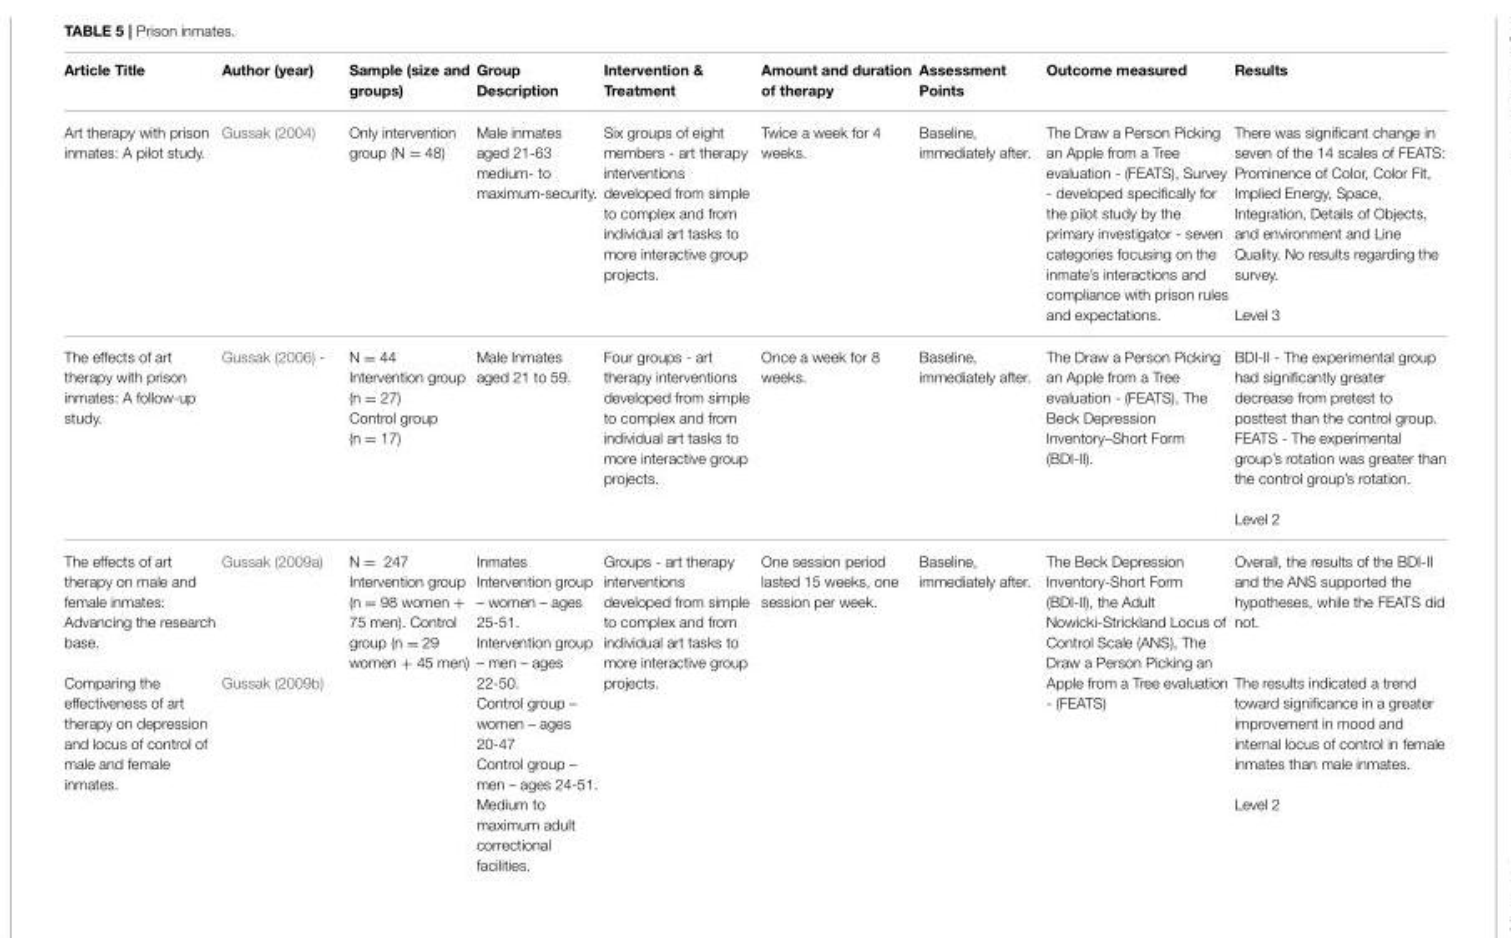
<table><thead><tr><td>Article Title</td><td>Author (year)</td><td>Sample (size and groups)</td><td>Group Description</td><td>Intervention &amp; Treatment</td><td>Amount and duration of therapy</td><td>Assessment Points</td><td>Outcome measured</td><td>Results</td></tr></thead><tbody><tr><td>Art therapy with prison inmates: A pilot study.</td><td>Gussak (2004)</td><td>Only intervention group (N = 48)</td><td>Male inmates aged 21-63 medium- to maximum-security.</td><td>Six groups of eight members - art therapy interventions developed from simple to complex and from individual art tasks to more interactive group projects.</td><td>Twice a week for 4 weeks.</td><td>Baseline, immediately after.</td><td>The Draw a Person Picking an Apple from a Tree evaluation - (FEATS), Survey - developed specifically for the pilot study by the primary investigator - seven categories focusing on the inmate’s interactions and compliance with prison rules and expectations.</td><td>There was significant change in seven of the 14 scales of FEATS: Prominence of Color, Color Fit, Implied Energy, Space, Integration, Details of Objects, and environment and Line Quality. No results regarding the survey. Level 3</td></tr><tr><td>The effects of art therapy with prison inmates: A follow-up study.</td><td>Gussak (2006) -</td><td>N = 44 Intervention group (n = 27) Control group (n = 17)</td><td>Male Inmates aged 21 to 59.</td><td>Four groups - art therapy interventions developed from simple to complex and from individual art tasks to more interactive group projects.</td><td>Once a week for 8 weeks.</td><td>Baseline, immediately after.</td><td>The Draw a Person Picking an Apple from a Tree evaluation - (FEATS), The Beck Depression Inventory–Short Form (BDI-II).</td><td>BDI-II - The experimental group had significantly greater decrease from pretest to posttest than the control group. FEATS - The experimental group’s rotation was greater than the control group’s rotation. Level 2</td></tr><tr><td>The effects of art therapy on male and female inmates: Advancing the research base. Comparing the effectiveness of art therapy on depression and locus of control of male and female inmates.</td><td>Gussak (2009a) Gussak (2009b)</td><td>N = 247 Intervention group (n = 98 women + 75 men). Control group (n = 29 women + 45 men)</td><td>Inmates Intervention group – women – ages 25-51. Intervention group – men – ages 22-50. Control group – women – ages 20-47 Control group – men – ages 24-51. Medium to maximum adult correctional facilities.</td><td>Groups - art therapy interventions developed from simple to complex and from individual art tasks to more interactive group projects.</td><td>One session period lasted 15 weeks, one session per week.</td><td>Baseline, immediately after.</td><td>The Beck Depression Inventory-Short Form (BDI-II), the Adult Nowicki-Strickland Locus of Control Scale (ANS), The Draw a Person Picking an Apple from a Tree evaluation - (FEATS)</td><td>Overall, the results of the BDI-II and the ANS supported the hypotheses, while the FEATS did not. The results indicated a trend toward significance in a greater improvement in mood and internal locus of control in female inmates than male inmates. Level 2</td></tr></tbody></table>